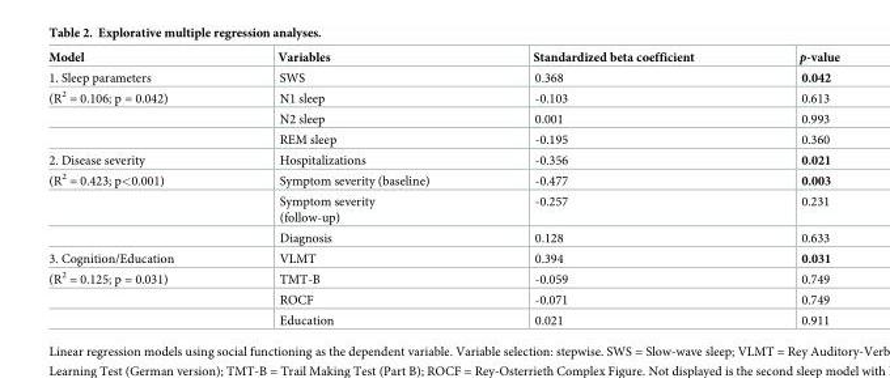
<table><thead><tr><td>Model</td><td>Variables</td><td>Standardized beta coefficient</td><td>p-value</td></tr></thead><tbody><tr><td>1. Sleep parameters</td><td>SWS</td><td>0.368</td><td>0.042</td></tr><tr><td rowspan="3">(R<sup>2</sup> = 0.106; p = 0.042)</td><td>N1 sleep</td><td>-0.103</td><td>0.613</td></tr><tr><td>N2 sleep</td><td>0.001</td><td>0.993</td></tr><tr><td>REM sleep</td><td>-0.195</td><td>0.360</td></tr><tr><td>2. Disease severity</td><td>Hospitalizations</td><td>-0.356</td><td>0.021</td></tr><tr><td rowspan="3">(R<sup>2</sup> = 0.423; p&lt;0.001)</td><td>Symptom severity (baseline)</td><td>-0.477</td><td>0.003</td></tr><tr><td>Symptom severity (follow-up)</td><td>-0.257</td><td>0.231</td></tr><tr><td>Diagnosis</td><td>0.128</td><td>0.633</td></tr><tr><td>3. Cognition/Education</td><td>VLMT</td><td>0.394</td><td>0.031</td></tr><tr><td rowspan="3">(R<sup>2</sup> = 0.125; p = 0.031)</td><td>TMT-B</td><td>-0.059</td><td>0.749</td></tr><tr><td>ROCF</td><td>-0.071</td><td>0.749</td></tr><tr><td>Education</td><td>0.021</td><td>0.911</td></tr></tbody></table>